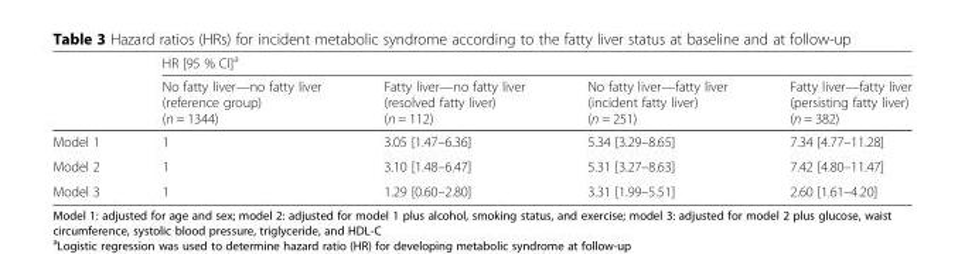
<table><thead><tr><td rowspan="2"></td><td colspan="4">HR [95 % CI]<sup>a</sup></td></tr><tr><td>No fatty liver—no fatty liver (reference group) (n = 1344)</td><td>Fatty liver—no fatty liver (resolved fatty liver) (n = 112)</td><td>No fatty liver—fatty liver (incident fatty liver) (n = 251)</td><td>Fatty liver—fatty liver (persisting fatty liver) (n = 382)</td></tr></thead><tbody><tr><td>Model 1</td><td>1</td><td>3.05 [1.47–6.36]</td><td>5.34 [3.29–8.65]</td><td>7.34 [4.77–11.28]</td></tr><tr><td>Model 2</td><td>1</td><td>3.10 [1.48–6.47]</td><td>5.31 [3.27–8.63]</td><td>7.42 [4.80–11.47]</td></tr><tr><td>Model 3</td><td>1</td><td>1.29 [0.60–2.80]</td><td>3.31 [1.99–5.51]</td><td>2.60 [1.61–4.20]</td></tr></tbody></table>